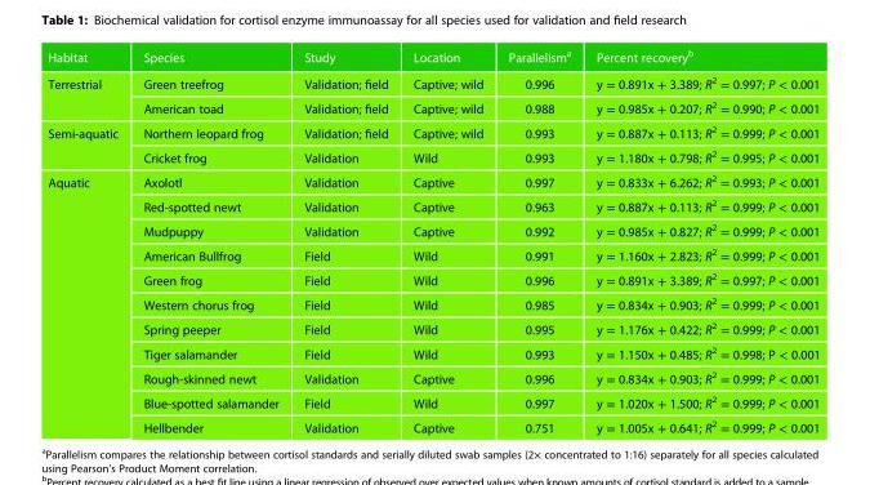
<table><thead><tr><td>Habitat</td><td>Species</td><td>Study</td><td>Location</td><td>Parallelism<sup>a</sup></td><td>Percent recovery<sup>b</sup></td></tr></thead><tbody><tr><td rowspan="2">Terrestrial</td><td>Green treefrog</td><td>Validation; field</td><td>Captive; wild</td><td>0.996</td><td>y = 0.891x + 3.389; R<sup>2</sup> = 0.997; P &lt; 0.001</td></tr><tr><td>American toad</td><td>Validation; field</td><td>Captive; wild</td><td>0.988</td><td>y = 0.985x + 0.207; R<sup>2</sup> = 0.990; P &lt; 0.001</td></tr><tr><td rowspan="2">Semi-aquatic</td><td>Northern leopard frog</td><td>Validation; field</td><td>Captive; wild</td><td>0.993</td><td>y = 0.887x + 0.113; R<sup>2</sup> = 0.999; P &lt; 0.001</td></tr><tr><td>Cricket frog</td><td>Validation</td><td>Wild</td><td>0.993</td><td>y = 1.180x + 0.798; R<sup>2</sup> = 0.995; P &lt; 0.001</td></tr><tr><td rowspan="11">Aquatic</td><td>Axolotl</td><td>Validation</td><td>Captive</td><td>0.997</td><td>y = 0.833x + 6.262; R<sup>2</sup> = 0.993; P &lt; 0.001</td></tr><tr><td>Red-spotted newt</td><td>Validation</td><td>Captive</td><td>0.963</td><td>y = 0.887x + 0.113; R<sup>2</sup> = 0.999; P &lt; 0.001</td></tr><tr><td>Mudpuppy</td><td>Validation</td><td>Captive</td><td>0.992</td><td>y = 0.985x + 0.827; R<sup>2</sup> = 0.999; P &lt; 0.001</td></tr><tr><td>American Bullfrog</td><td>Field</td><td>Wild</td><td>0.991</td><td>y = 1.160x + 2.823; R<sup>2</sup> = 0.999; P &lt; 0.001</td></tr><tr><td>Green frog</td><td>Field</td><td>Wild</td><td>0.996</td><td>y = 0.891x + 3.389; R<sup>2</sup> = 0.997; P &lt; 0.001</td></tr><tr><td>Western chorus frog</td><td>Field</td><td>Wild</td><td>0.985</td><td>y = 0.834x + 0.903; R<sup>2</sup> = 0.999; P &lt; 0.001</td></tr><tr><td>Spring peeper</td><td>Field</td><td>Wild</td><td>0.995</td><td>y = 1.176x + 0.422; R<sup>2</sup> = 0.999; P &lt; 0.001</td></tr><tr><td>Tiger salamander</td><td>Field</td><td>Wild</td><td>0.993</td><td>y = 1.150x + 0.485; R<sup>2</sup> = 0.998; P &lt; 0.001</td></tr><tr><td>Rough-skinned newt</td><td>Validation</td><td>Captive</td><td>0.996</td><td>y = 0.834x + 0.903; R<sup>2</sup> = 0.999; P &lt; 0.001</td></tr><tr><td>Blue-spotted salamander</td><td>Field</td><td>Wild</td><td>0.997</td><td>y = 1.020x + 1.500; R<sup>2</sup> = 0.999; P &lt; 0.001</td></tr><tr><td>Hellbender</td><td>Validation</td><td>Captive</td><td>0.751</td><td>y = 1.005x + 0.641; R<sup>2</sup> = 0.999; P &lt; 0.001</td></tr></tbody></table>